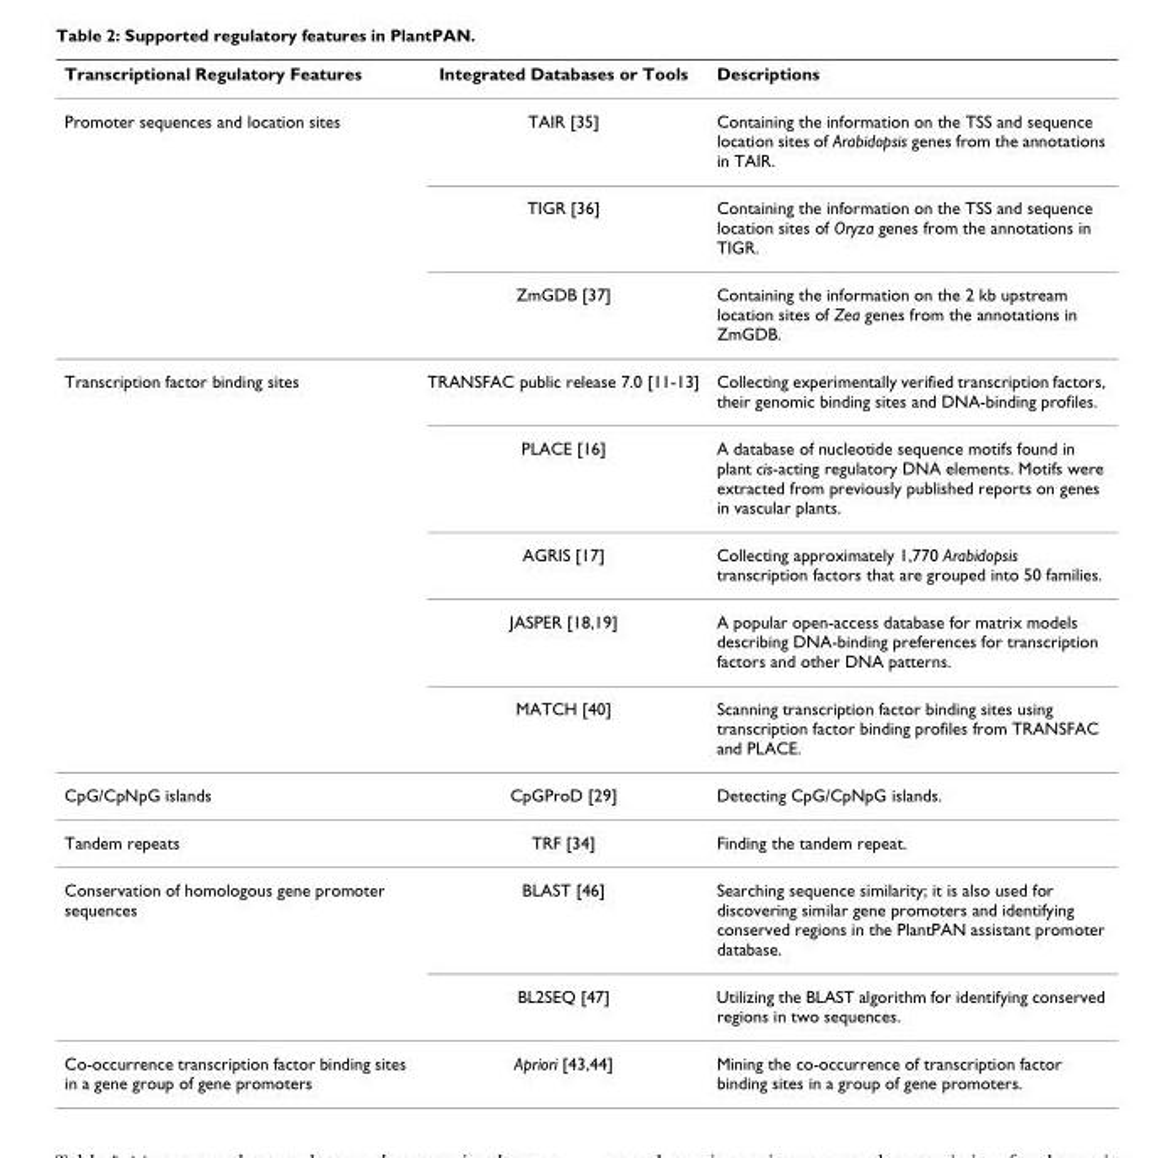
<table><thead><tr><td>Transcriptional Regulatory Features</td><td>Integrated Databases or Tools</td><td>Descriptions</td></tr></thead><tbody><tr><td rowspan="3">Promoter sequences and location sites</td><td>TAIR [35]</td><td>Containing the information on the TSS and sequence location sites of Arabidopsis genes from the annotations in TAIR.</td></tr><tr><td>TIGR [36]</td><td>Containing the information on the TSS and sequence location sites of Oryza genes from the annotations in TIGR.</td></tr><tr><td>ZmGDB [37]</td><td>Containing the information on the 2 kb upstream location sites of Zea genes from the annotations in ZmGDB.</td></tr><tr><td rowspan="5">Transcription factor binding sites</td><td>TRANSFAC public release 7.0 [11-13]</td><td>Collecting experimentally verified transcription factors, their genomic binding sites and DNA-binding profiles.</td></tr><tr><td>PLACE [16]</td><td>A database of nucleotide sequence motifs found in plant cis-acting regulatory DNA elements. Motifs were extracted from previously published reports on genes in vascular plants.</td></tr><tr><td>AGRIS [17]</td><td>Collecting approximately 1,770 Arabidopsis transcription factors that are grouped into 50 families.</td></tr><tr><td>JASPER [18,19]</td><td>A popular open-access database for matrix models describing DNA-binding preferences for transcription factors and other DNA patterns.</td></tr><tr><td>MATCH [40]</td><td>Scanning transcription factor binding sites using transcription factor binding profiles from TRANSFAC and PLACE.</td></tr><tr><td>CpG/CpNpG islands</td><td>CpGProD [29]</td><td>Detecting CpG/CpNpG islands.</td></tr><tr><td>Tandem repeats</td><td>TRF [34]</td><td>Finding the tandem repeat.</td></tr><tr><td rowspan="2">Conservation of homologous gene promoter sequences</td><td>BLAST [46]</td><td>Searching sequence similarity; it is also used for discovering similar gene promoters and identifying conserved regions in the PlantPAN assistant promoter database.</td></tr><tr><td>BL2SEQ [47]</td><td>Utilizing the BLAST algorithm for identifying conserved regions in two sequences.</td></tr><tr><td>Co-occurrence transcription factor binding sites in a gene group of gene promoters</td><td>Apriori [43,44]</td><td>Mining the co-occurrence of transcription factor binding sites in a group of gene promoters.</td></tr></tbody></table>